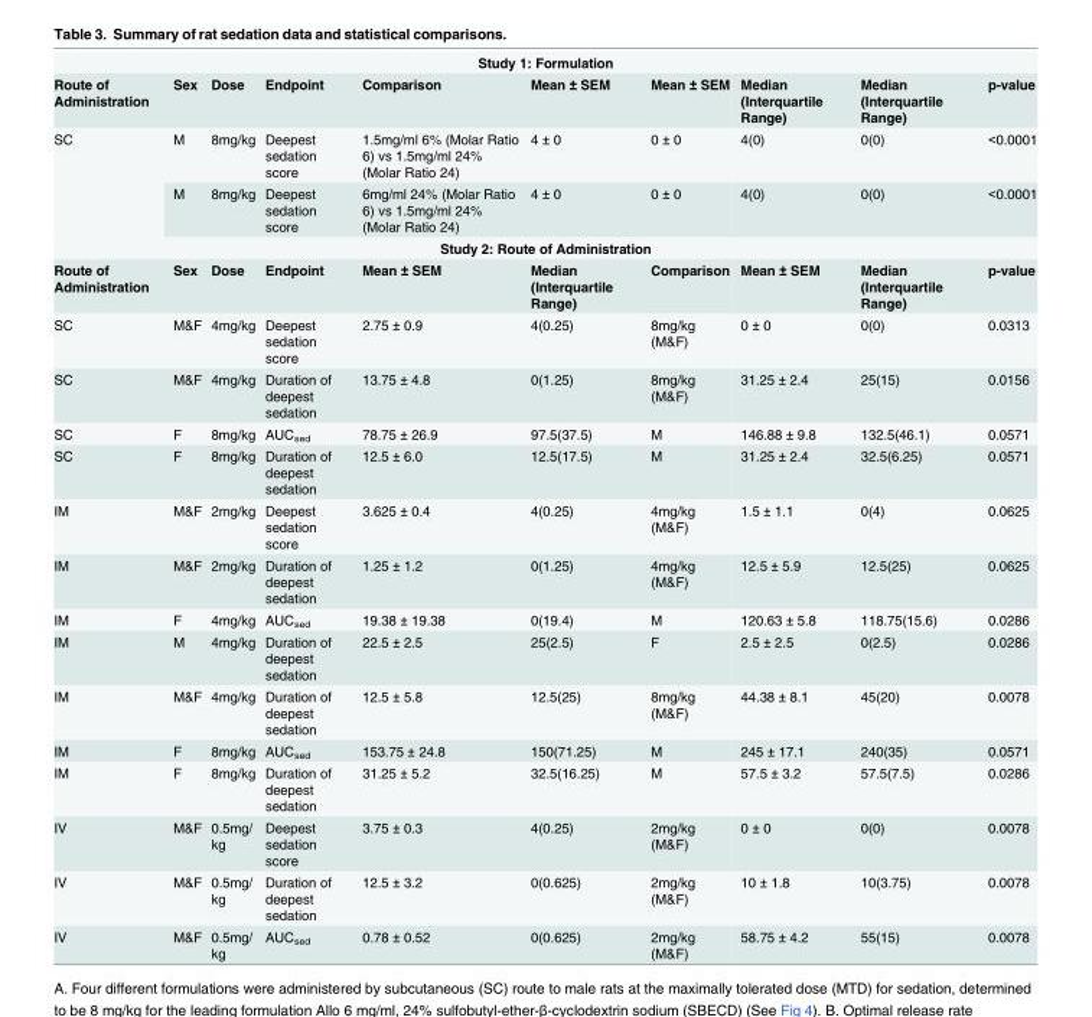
<table><tbody><tr><td colspan="10">Study 1: Formulation</td></tr><tr><td>Route of Administration</td><td>Sex</td><td>Dose</td><td>Endpoint</td><td>Comparison</td><td>Mean ± SEM</td><td>Mean ± SEM</td><td>Median (Interquartile Range)</td><td>Median (Interquartile Range)</td><td>p-value</td></tr><tr><td rowspan="2">SC</td><td>M</td><td>8mg/kg</td><td>Deepest sedation score</td><td>1.5mg/ml 6% (Molar Ratio 6) vs 1.5mg/ml 24% (Molar Ratio 24)</td><td>4 ± 0</td><td>0 ± 0</td><td>4(0)</td><td>0(0)</td><td>&lt;0.0001</td></tr><tr><td>M</td><td>8mg/kg</td><td>Deepest sedation score</td><td>6mg/ml 24% (Molar Ratio 6) vs 1.5mg/ml 24% (Molar Ratio 24)</td><td>4 ± 0</td><td>0 ± 0</td><td>4(0)</td><td>0(0)</td><td>&lt;0.0001</td></tr><tr><td colspan="10">Study 2: Route of Administration</td></tr><tr><td>Route of Administration</td><td>Sex</td><td>Dose</td><td>Endpoint</td><td>Mean ± SEM</td><td>Median (Interquartile Range)</td><td>Comparison</td><td>Mean ± SEM</td><td>Median (Interquartile Range)</td><td>p-value</td></tr><tr><td>SC</td><td>M&amp;F</td><td>4mg/kg</td><td>Deepest sedation score</td><td>2.75 ± 0.9</td><td>4(0.25)</td><td>8mg/kg (M&amp;F)</td><td>0 ± 0</td><td>0(0)</td><td>0.0313</td></tr><tr><td>SC</td><td>M&amp;F</td><td>4mg/kg</td><td>Duration of deepest sedation</td><td>13.75 ± 4.8</td><td>0(1.25)</td><td>8mg/kg (M&amp;F)</td><td>31.25 ± 2.4</td><td>25(15)</td><td>0.0156</td></tr><tr><td>SC</td><td>F</td><td>8mg/kg</td><td>AUC<sub>sed</sub></td><td>78.75 ± 26.9</td><td>97.5(37.5)</td><td>M</td><td>146.88 ± 9.8</td><td>132.5(46.1)</td><td>0.0571</td></tr><tr><td>SC</td><td>F</td><td>8mg/kg</td><td>Duration of deepest sedation</td><td>12.5 ± 6.0</td><td>12.5(17.5)</td><td>M</td><td>31.25 ± 2.4</td><td>32.5(6.25)</td><td>0.0571</td></tr><tr><td>IM</td><td>M&amp;F</td><td>2mg/kg</td><td>Deepest sedation score</td><td>3.625 ± 0.4</td><td>4(0.25)</td><td>4mg/kg (M&amp;F)</td><td>1.5 ± 1.1</td><td>0(4)</td><td>0.0625</td></tr><tr><td>IM</td><td>M&amp;F</td><td>2mg/kg</td><td>Duration of deepest sedation</td><td>1.25 ± 1.2</td><td>0(1.25)</td><td>4mg/kg (M&amp;F)</td><td>12.5 ± 5.9</td><td>12.5(25)</td><td>0.0625</td></tr><tr><td>IM</td><td>F</td><td>4mg/kg</td><td>AUC<sub>sed</sub></td><td>19.38 ± 19.38</td><td>0(19.4)</td><td>M</td><td>120.63 ± 5.8</td><td>118.75(15.6)</td><td>0.0286</td></tr><tr><td>IM</td><td>M</td><td>4mg/kg</td><td>Duration of deepest sedation</td><td>22.5 ± 2.5</td><td>25(2.5)</td><td>F</td><td>2.5 ± 2.5</td><td>0(2.5)</td><td>0.0286</td></tr><tr><td>IM</td><td>M&amp;F</td><td>4mg/kg</td><td>Duration of deepest sedation</td><td>12.5 ± 5.8</td><td>12.5(25)</td><td>8mg/kg (M&amp;F)</td><td>44.38 ± 8.1</td><td>45(20)</td><td>0.0078</td></tr><tr><td>IM</td><td>F</td><td>8mg/kg</td><td>AUC<sub>sed</sub></td><td>153.75 ± 24.8</td><td>150(71.25)</td><td>M</td><td>245 ± 17.1</td><td>240(35)</td><td>0.0571</td></tr><tr><td>IM</td><td>F</td><td>8mg/kg</td><td>Duration of deepest sedation</td><td>31.25 ± 5.2</td><td>32.5(16.25)</td><td>M</td><td>57.5 ± 3.2</td><td>57.5(7.5)</td><td>0.0286</td></tr><tr><td>IV</td><td>M&amp;F</td><td>0.5mg/ kg</td><td>Deepest sedation score</td><td>3.75 ± 0.3</td><td>4(0.25)</td><td>2mg/kg (M&amp;F)</td><td>0 ± 0</td><td>0(0)</td><td>0.0078</td></tr><tr><td>IV</td><td>M&amp;F</td><td>0.5mg/ kg</td><td>Duration of deepest sedation</td><td>12.5 ± 3.2</td><td>0(0.625)</td><td>2mg/kg (M&amp;F)</td><td>10 ± 1.8</td><td>10(3.75)</td><td>0.0078</td></tr><tr><td>IV</td><td>M&amp;F</td><td>0.5mg/ kg</td><td>AUC<sub>sed</sub></td><td>0.78 ± 0.52</td><td>0(0.625)</td><td>2mg/kg (M&amp;F)</td><td>58.75 ± 4.2</td><td>55(15)</td><td>0.0078</td></tr></tbody></table>